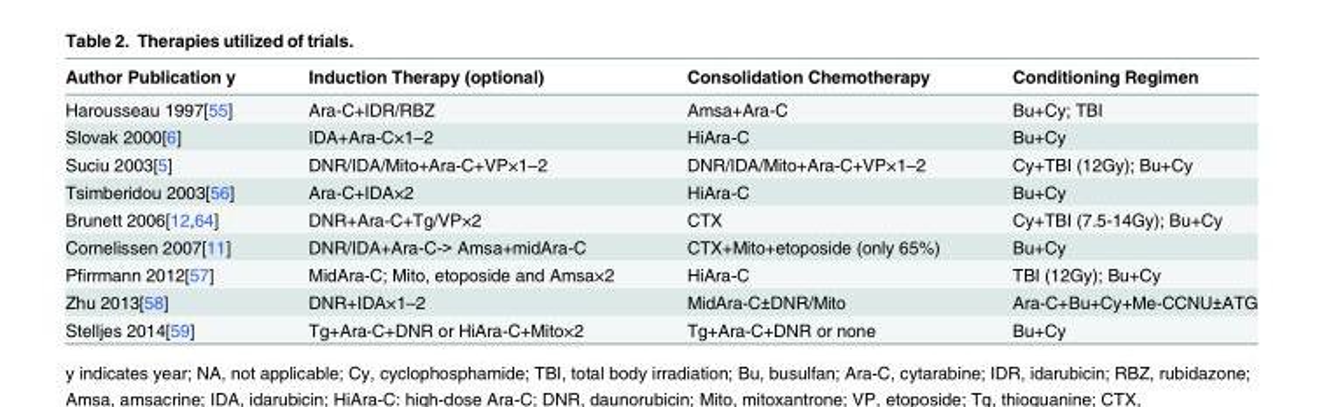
<table><thead><tr><td>Author Publication y</td><td>Induction Therapy (optional)</td><td>Consolidation Chemotherapy</td><td>Conditioning Regimen</td></tr></thead><tbody><tr><td>Harousseau 1997[55]</td><td>Ara-C+IDR/RBZ</td><td>Amsa+Ara-C</td><td>Bu+Cy; TBI</td></tr><tr><td>Slovak 2000[6]</td><td>IDA+Ara-C×1–2</td><td>HiAra-C</td><td>Bu+Cy</td></tr><tr><td>Suciu 2003[5]</td><td>DNR/IDA/Mito+Ara-C+VP×1–2</td><td>DNR/IDA/Mito+Ara-C+VP×1–2</td><td>Cy+TBI (12Gy); Bu+Cy</td></tr><tr><td>Tsimberidou 2003[56]</td><td>Ara-C+IDA×2</td><td>HiAra-C</td><td>Bu+Cy</td></tr><tr><td>Brunett 2006[12,64]</td><td>DNR+Ara-C+Tg/VP×2</td><td>CTX</td><td>Cy+TBI (7.5-14Gy); Bu+Cy</td></tr><tr><td>Cornelissen 2007[11]</td><td>DNR/IDA+Ara-C-&gt; Amsa+midAra-C</td><td>CTX+Mito+etoposide (only 65%)</td><td>Bu+Cy</td></tr><tr><td>Pfirrmann 2012[57]</td><td>MidAra-C; Mito, etoposide and Amsa×2</td><td>HiAra-C</td><td>TBI (12Gy); Bu+Cy</td></tr><tr><td>Zhu 2013[58]</td><td>DNR+IDA×1–2</td><td>MidAra-C±DNR/Mito</td><td>Ara-C+Bu+Cy+Me-CCNU±ATG</td></tr><tr><td>Stelljes 2014[59]</td><td>Tg+Ara-C+DNR or HiAra-C+Mito×2</td><td>Tg+Ara-C+DNR or none</td><td>Bu+Cy</td></tr></tbody></table>